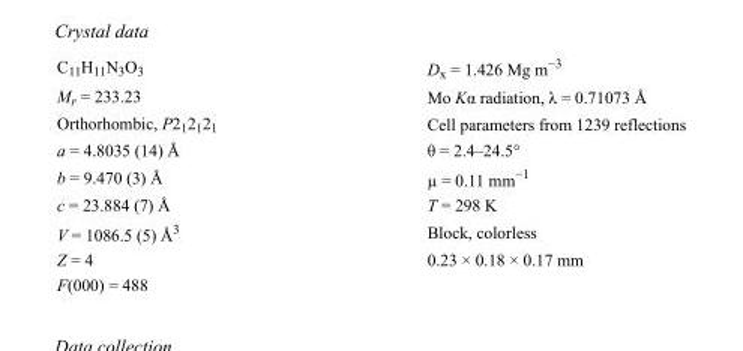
<table><tbody><tr><td>C<sub>11</sub>H<sub>11</sub>N<sub>3</sub>O<sub>3</sub></td><td>D<sub>x</sub> = 1.426 Mg m<sup>−3</sup></td></tr><tr><td>M<sub>r</sub> = 233.23</td><td>Mo Kα radiation, λ = 0.71073 Å</td></tr><tr><td>Orthorhombic, P2<sub>1</sub>2<sub>1</sub>2<sub>1</sub></td><td>Cell parameters from 1239 reflections</td></tr><tr><td>a = 4.8035 (14) Å</td><td>θ = 2.4–24.5°</td></tr><tr><td>b = 9.470 (3) Å</td><td>µ = 0.11 mm<sup>−1</sup></td></tr><tr><td>c = 23.884 (7) Å</td><td>T = 298 K</td></tr><tr><td>V = 1086.5 (5) Å<sup>3</sup></td><td>Block, colorless</td></tr><tr><td>Z = 4</td><td>0.23 × 0.18 × 0.17 mm</td></tr><tr><td>F(000) = 488</td><td></td></tr></tbody></table>